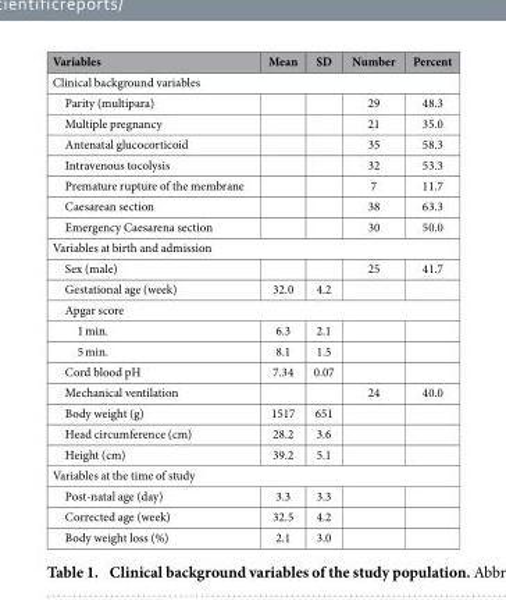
<table><thead><tr><td>Variables</td><td>Mean</td><td>SD</td><td>Number</td><td>Percent</td></tr></thead><tbody><tr><td colspan="5">Clinical background variables</td></tr><tr><td>Parity (multipara)</td><td></td><td></td><td>29</td><td>48.3</td></tr><tr><td>Multiple pregnancy</td><td></td><td></td><td>21</td><td>35.0</td></tr><tr><td>Antenatal glucocorticoid</td><td></td><td></td><td>35</td><td>58.3</td></tr><tr><td>Intravenous tocolysis</td><td></td><td></td><td>32</td><td>53.3</td></tr><tr><td>Premature rupture of the membrane</td><td></td><td></td><td>7</td><td>11.7</td></tr><tr><td>Caesarean section</td><td></td><td></td><td>38</td><td>63.3</td></tr><tr><td>Emergency Caesarena section</td><td></td><td></td><td>30</td><td>50.0</td></tr><tr><td colspan="5">Variables at birth and admission</td></tr><tr><td>Sex (male)</td><td></td><td></td><td>25</td><td>41.7</td></tr><tr><td>Gestational age (week)</td><td>32.0</td><td>4.2</td><td></td><td></td></tr><tr><td colspan="5">Apgar score</td></tr><tr><td>1 min.</td><td>6.3</td><td>2.1</td><td></td><td></td></tr><tr><td>5 min.</td><td>8.1</td><td>1.5</td><td></td><td></td></tr><tr><td>Cord blood pH</td><td>7.34</td><td>0.07</td><td></td><td></td></tr><tr><td>Mechanical ventilation</td><td></td><td></td><td>24</td><td>40.0</td></tr><tr><td>Body weight (g)</td><td>1517</td><td>651</td><td></td><td></td></tr><tr><td>Head circumference (cm)</td><td>28.2</td><td>3.6</td><td></td><td></td></tr><tr><td>Height (cm)</td><td>39.2</td><td>5.1</td><td></td><td></td></tr><tr><td colspan="5">Variables at the time of study</td></tr><tr><td>Post-natal age (day)</td><td>3.3</td><td>3.3</td><td></td><td></td></tr><tr><td>Corrected age (week)</td><td>32.5</td><td>4.2</td><td></td><td></td></tr><tr><td>Body weight loss (%)</td><td>2.1</td><td>3.0</td><td></td><td></td></tr></tbody></table>